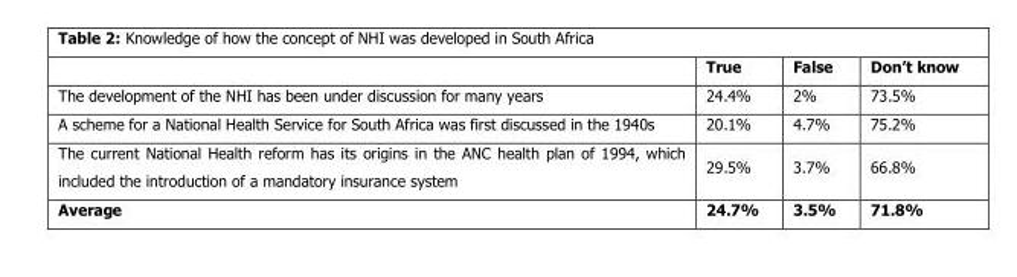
<table><thead><tr><td></td><td>True</td><td>False</td><td>Don’t know</td></tr></thead><tbody><tr><td>The development of the NHI has been under discussion for many years</td><td>24.4%</td><td>2%</td><td>73.5%</td></tr><tr><td>A scheme for a National Health Service for South Africa was first discussed in the 1940s</td><td>20.1%</td><td>4.7%</td><td>75.2%</td></tr><tr><td>The current National Health reform has its origins in the ANC health plan of 1994, which included the introduction of a mandatory insurance system</td><td>29.5%</td><td>3.7%</td><td>66.8%</td></tr><tr><td>Average</td><td>24.7%</td><td>3.5%</td><td>71.8%</td></tr></tbody></table>